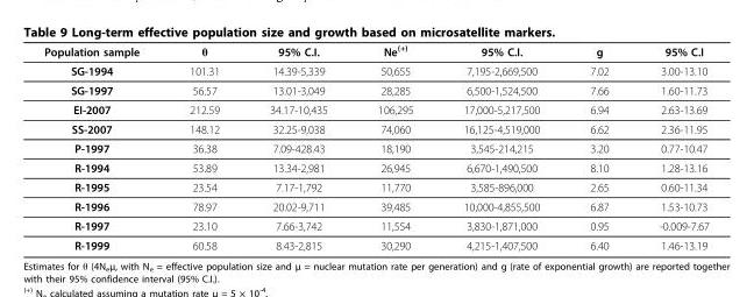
<table><thead><tr><td>Population sample</td><td>θ</td><td>95% C.I.</td><td>Ne<sup>(+)</sup></td><td>95% C.I.</td><td>g</td><td>95% C.I</td></tr></thead><tbody><tr><td>SG-1994</td><td>101.31</td><td>14.39-5,339</td><td>50,655</td><td>7,195-2,669,500</td><td>7.02</td><td>3.00-13.10</td></tr><tr><td>SG-1997</td><td>56.57</td><td>13.01-3,049</td><td>28,285</td><td>6,500-1,524,500</td><td>7.66</td><td>1.60-11.73</td></tr><tr><td>EI-2007</td><td>212.59</td><td>34.17-10,435</td><td>106,295</td><td>17,000-5,217,500</td><td>6.94</td><td>2.63-13.69</td></tr><tr><td>SS-2007</td><td>148.12</td><td>32.25-9,038</td><td>74,060</td><td>16,125-4,519,000</td><td>6.62</td><td>2.36-11.95</td></tr><tr><td>P-1997</td><td>36.38</td><td>7.09-428.43</td><td>18,190</td><td>3,545-214,215</td><td>3.20</td><td>0.77-10.47</td></tr><tr><td>R-1994</td><td>53.89</td><td>13.34-2,981</td><td>26,945</td><td>6,670-1,490,500</td><td>8.10</td><td>1.28-13.16</td></tr><tr><td>R-1995</td><td>23.54</td><td>7.17-1,792</td><td>11,770</td><td>3,585-896,000</td><td>2.65</td><td>0.60-11.34</td></tr><tr><td>R-1996</td><td>78.97</td><td>20.02-9,711</td><td>39,485</td><td>10,000-4,855,500</td><td>6.87</td><td>1.53-10.73</td></tr><tr><td>R-1997</td><td>23.10</td><td>7.66-3,742</td><td>11,554</td><td>3,830-1,871,000</td><td>0.95</td><td>-0.009-7.67</td></tr><tr><td>R-1999</td><td>60.58</td><td>8.43-2,815</td><td>30,290</td><td>4,215-1,407,500</td><td>6.40</td><td>1.46-13.19</td></tr></tbody></table>